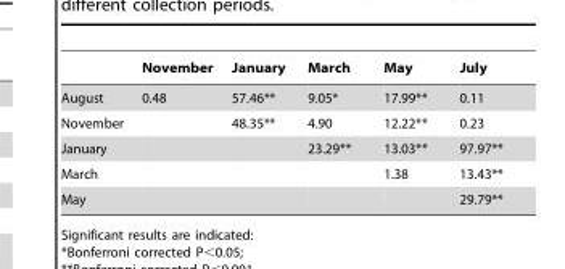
<table><thead><tr><td></td><td>November</td><td>January</td><td>March</td><td>May</td><td>July</td></tr></thead><tbody><tr><td>August</td><td>0.48</td><td>57.46**</td><td>9.05*</td><td>17.99**</td><td>0.11</td></tr><tr><td>November</td><td></td><td>48.35**</td><td>4.90</td><td>12.22**</td><td>0.23</td></tr><tr><td>January</td><td></td><td></td><td>23.29**</td><td>13.03**</td><td>97.97**</td></tr><tr><td>March</td><td></td><td></td><td></td><td>1.38</td><td>13.43**</td></tr><tr><td>May</td><td></td><td></td><td></td><td></td><td>29.79**</td></tr></tbody></table>